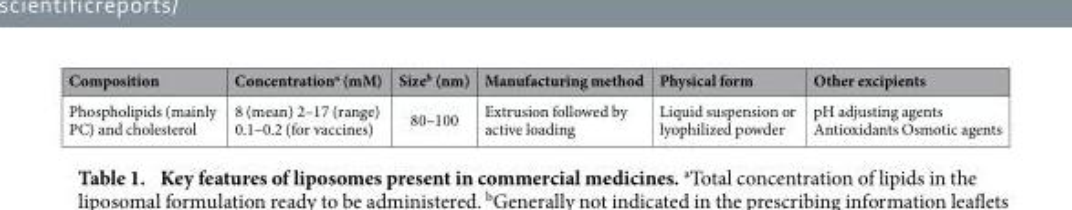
<table><thead><tr><td>Composition</td><td>Concentration<sup>a</sup> (mM)</td><td>Size<sup>b</sup> (nm)</td><td>Manufacturing method</td><td>Physical form</td><td>Other excipients</td></tr></thead><tbody><tr><td>Phospholipids (mainly PC) and cholesterol</td><td>8 (mean) 2–17 (range) 0.1–0.2 (for vaccines)</td><td>80–100</td><td>Extrusion followed by active loading</td><td>Liquid suspension or lyophilized powder</td><td>pH adjusting agents Antioxidants Osmotic agents</td></tr></tbody></table>